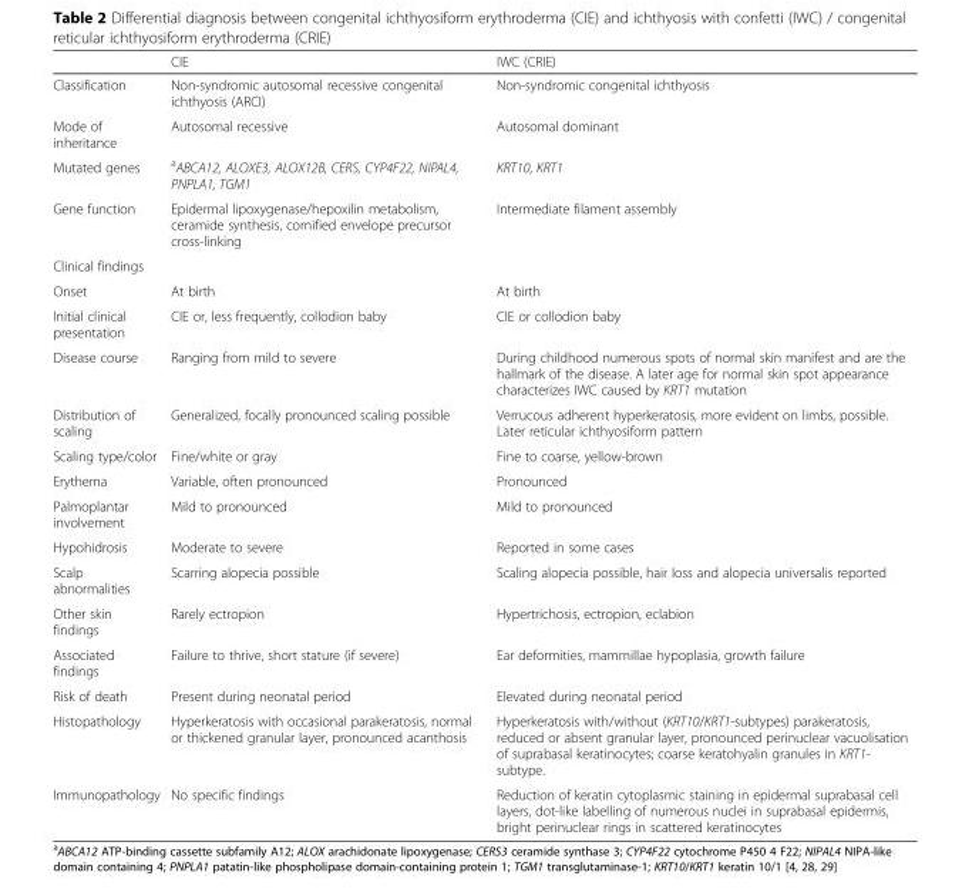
<table><thead><tr><td></td><td>CIE</td><td>IWC (CRIE)</td></tr></thead><tbody><tr><td>Classification</td><td>Non-syndromic autosomal recessive congenital ichthyosis (ARCI)</td><td>Non-syndromic congenital ichthyosis</td></tr><tr><td>Mode of inheritance</td><td>Autosomal recessive</td><td>Autosomal dominant</td></tr><tr><td>Mutated genes</td><td><sup>a</sup>ABCA12, ALOXE3, ALOX12B, CERS, CYP4F22, NIPAL4, PNPLA1, TGM1</td><td>KRT10, KRT1</td></tr><tr><td>Gene function</td><td>Epidermal lipoxygenase/hepoxilin metabolism, ceramide synthesis, cornified envelope precursor cross-linking</td><td>Intermediate filament assembly</td></tr><tr><td colspan="3">Clinical findings</td></tr><tr><td>Onset</td><td>At birth</td><td>At birth</td></tr><tr><td>Initial clinical presentation</td><td>CIE or, less frequently, collodion baby</td><td>CIE or collodion baby</td></tr><tr><td>Disease course</td><td>Ranging from mild to severe</td><td>During childhood numerous spots of normal skin manifest and are the hallmark of the disease. A later age for normal skin spot appearance characterizes IWC caused by KRT1 mutation</td></tr><tr><td>Distribution of scaling</td><td>Generalized, focally pronounced scaling possible</td><td>Verrucous adherent hyperkeratosis, more evident on limbs, possible. Later reticular ichthyosiform pattern</td></tr><tr><td>Scaling type/color</td><td>Fine/white or gray</td><td>Fine to coarse, yellow-brown</td></tr><tr><td>Erythema</td><td>Variable, often pronounced</td><td>Pronounced</td></tr><tr><td>Palmoplantar involvement</td><td>Mild to pronounced</td><td>Mild to pronounced</td></tr><tr><td>Hypohidrosis</td><td>Moderate to severe</td><td>Reported in some cases</td></tr><tr><td>Scalp abnormalities</td><td>Scarring alopecia possible</td><td>Scaling alopecia possible, hair loss and alopecia universalis reported</td></tr><tr><td>Other skin findings</td><td>Rarely ectropion</td><td>Hypertrichosis, ectropion, eclabion</td></tr><tr><td>Associated findings</td><td>Failure to thrive, short stature (if severe)</td><td>Ear deformities, mammillae hypoplasia, growth failure</td></tr><tr><td>Risk of death</td><td>Present during neonatal period</td><td>Elevated during neonatal period</td></tr><tr><td>Histopathology</td><td>Hyperkeratosis with occasional parakeratosis, normal or thickened granular layer, pronounced acanthosis</td><td>Hyperkeratosis with/without (KRT10/KRT1-subtypes) parakeratosis, reduced or absent granular layer, pronounced perinuclear vacuolisation of suprabasal keratinocytes; coarse keratohyalin granules in KRT1- subtype.</td></tr><tr><td>Immunopathology</td><td>No specific findings</td><td>Reduction of keratin cytoplasmic staining in epidermal suprabasal cell layers, dot-like labelling of numerous nuclei in suprabasal epidermis, bright perinuclear rings in scattered keratinocytes</td></tr></tbody></table>